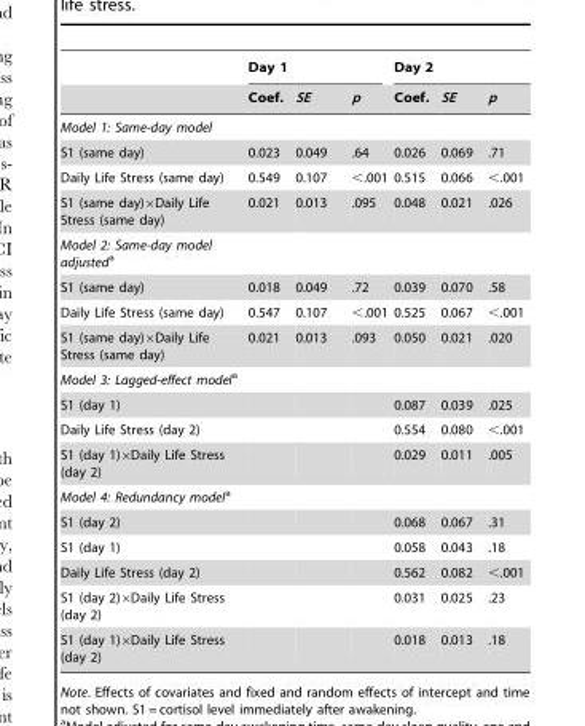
<table><thead><tr><td rowspan="2"></td><td colspan="3">Day 1</td><td colspan="3">Day 2</td></tr><tr><td>Coef.</td><td>SE</td><td>p</td><td>Coef.</td><td>SE</td><td>p</td></tr></thead><tbody><tr><td colspan="7">Model 1: Same-day model</td></tr><tr><td>S1 (same day)</td><td>0.023</td><td>0.049</td><td>.64</td><td>0.026</td><td>0.069</td><td>.71</td></tr><tr><td>Daily Life Stress (same day)</td><td>0.549</td><td>0.107</td><td>&lt;.001</td><td>0.515</td><td>0.066</td><td>&lt;.001</td></tr><tr><td>S1 (same day)×Daily Life Stress (same day)</td><td>0.021</td><td>0.013</td><td>.095</td><td>0.048</td><td>0.021</td><td>.026</td></tr><tr><td colspan="7">Model 2: Same-day model adjusteda</td></tr><tr><td>S1 (same day)</td><td>0.018</td><td>0.049</td><td>.72</td><td>0.039</td><td>0.070</td><td>.58</td></tr><tr><td>Daily Life Stress (same day)</td><td>0.547</td><td>0.107</td><td>&lt;.001</td><td>0.525</td><td>0.067</td><td>&lt;.001</td></tr><tr><td>S1 (same day)×Daily Life Stress (same day)</td><td>0.021</td><td>0.013</td><td>.093</td><td>0.050</td><td>0.021</td><td>.020</td></tr><tr><td colspan="7">Model 3: Lagged-effect modela</td></tr><tr><td>S1 (day 1)</td><td></td><td></td><td></td><td>0.087</td><td>0.039</td><td>.025</td></tr><tr><td>Daily Life Stress (day 2)</td><td></td><td></td><td></td><td>0.554</td><td>0.080</td><td>&lt;.001</td></tr><tr><td>S1 (day 1)×Daily Life Stress (day 2)</td><td></td><td></td><td></td><td>0.029</td><td>0.011</td><td>.005</td></tr><tr><td colspan="7">Model 4: Redundancy modela</td></tr><tr><td>S1 (day 2)</td><td></td><td></td><td></td><td>0.068</td><td>0.067</td><td>.31</td></tr><tr><td>S1 (day 1)</td><td></td><td></td><td></td><td>0.058</td><td>0.043</td><td>.18</td></tr><tr><td>Daily Life Stress (day 2)</td><td></td><td></td><td></td><td>0.562</td><td>0.082</td><td>&lt;.001</td></tr><tr><td>S1 (day 2)×Daily Life Stress (day 2)</td><td></td><td></td><td></td><td>0.031</td><td>0.025</td><td>.23</td></tr><tr><td>S1 (day 1)×Daily Life Stress (day 2)</td><td></td><td></td><td></td><td>0.018</td><td>0.013</td><td>.18</td></tr></tbody></table>